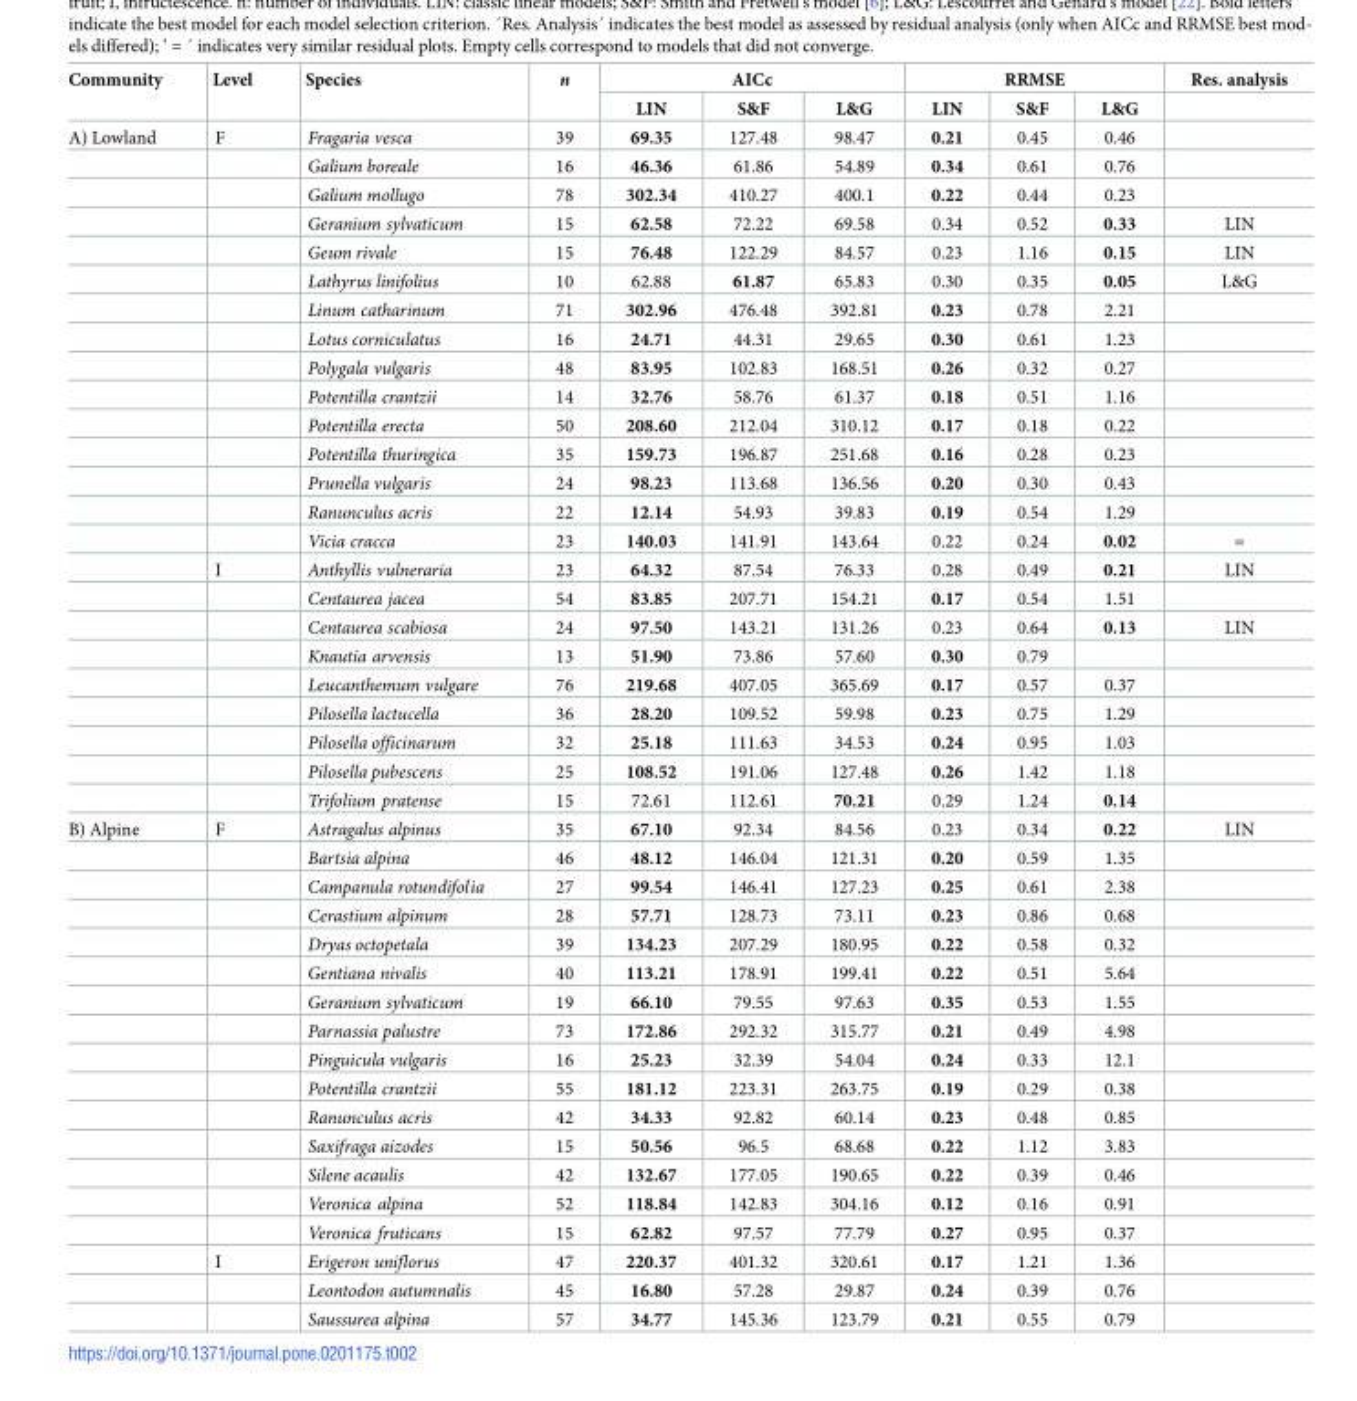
<table><thead><tr><td rowspan="2">Community</td><td rowspan="2">Level</td><td rowspan="2">Species</td><td rowspan="2">n</td><td colspan="3">AICc</td><td colspan="3">RRMSE</td><td rowspan="2">Res. analysis</td></tr><tr><td>LIN</td><td>S&amp;F</td><td>L&amp;G</td><td>LIN</td><td>S&amp;F</td><td>L&amp;G</td></tr></thead><tbody><tr><td rowspan="24">A) Lowland</td><td>F</td><td>Fragaria vesca</td><td>39</td><td>69.35</td><td>127.48</td><td>98.47</td><td>0.21</td><td>0.45</td><td>0.46</td><td></td></tr><tr><td></td><td>Galium boreale</td><td>16</td><td>46.36</td><td>61.86</td><td>54.89</td><td>0.34</td><td>0.61</td><td>0.76</td><td></td></tr><tr><td></td><td>Galium mollugo</td><td>78</td><td>302.34</td><td>410.27</td><td>400.1</td><td>0.22</td><td>0.44</td><td>0.23</td><td></td></tr><tr><td></td><td>Geranium sylvaticum</td><td>15</td><td>62.58</td><td>72.22</td><td>69.58</td><td>0.34</td><td>0.52</td><td>0.33</td><td>LIN</td></tr><tr><td></td><td>Geum rivale</td><td>15</td><td>76.48</td><td>122.29</td><td>84.57</td><td>0.23</td><td>1.16</td><td>0.15</td><td>LIN</td></tr><tr><td></td><td>Lathyrus linifolius</td><td>10</td><td>62.88</td><td>61.87</td><td>65.83</td><td>0.30</td><td>0.35</td><td>0.05</td><td>L&amp;G</td></tr><tr><td></td><td>Linum catharinum</td><td>71</td><td>302.96</td><td>476.48</td><td>392.81</td><td>0.23</td><td>0.78</td><td>2.21</td><td></td></tr><tr><td></td><td>Lotus corniculatus</td><td>16</td><td>24.71</td><td>44.31</td><td>29.65</td><td>0.30</td><td>0.61</td><td>1.23</td><td></td></tr><tr><td></td><td>Polygala vulgaris</td><td>48</td><td>83.95</td><td>102.83</td><td>168.51</td><td>0.26</td><td>0.32</td><td>0.27</td><td></td></tr><tr><td></td><td>Potentilla crantzii</td><td>14</td><td>32.76</td><td>58.76</td><td>61.37</td><td>0.18</td><td>0.51</td><td>1.16</td><td></td></tr><tr><td></td><td>Potentilla erecta</td><td>50</td><td>208.60</td><td>212.04</td><td>310.12</td><td>0.17</td><td>0.18</td><td>0.22</td><td></td></tr><tr><td></td><td>Potentilla thuringica</td><td>35</td><td>159.73</td><td>196.87</td><td>251.68</td><td>0.16</td><td>0.28</td><td>0.23</td><td></td></tr><tr><td></td><td>Prunella vulgaris</td><td>24</td><td>98.23</td><td>113.68</td><td>136.56</td><td>0.20</td><td>0.30</td><td>0.43</td><td></td></tr><tr><td></td><td>Ranunculus acris</td><td>22</td><td>12.14</td><td>54.93</td><td>39.83</td><td>0.19</td><td>0.54</td><td>1.29</td><td></td></tr><tr><td></td><td>Vicia cracca</td><td>23</td><td>140.03</td><td>141.91</td><td>143.64</td><td>0.22</td><td>0.24</td><td>0.02</td><td>=</td></tr><tr><td>I</td><td>Anthyllis vulneraria</td><td>23</td><td>64.32</td><td>87.54</td><td>76.33</td><td>0.28</td><td>0.49</td><td>0.21</td><td>LIN</td></tr><tr><td></td><td>Centaurea jacea</td><td>54</td><td>83.85</td><td>207.71</td><td>154.21</td><td>0.17</td><td>0.54</td><td>1.51</td><td></td></tr><tr><td></td><td>Centaurea scabiosa</td><td>24</td><td>97.50</td><td>143.21</td><td>131.26</td><td>0.23</td><td>0.64</td><td>0.13</td><td>LIN</td></tr><tr><td></td><td>Knautia arvensis</td><td>13</td><td>51.90</td><td>73.86</td><td>57.60</td><td>0.30</td><td>0.79</td><td></td><td></td></tr><tr><td></td><td>Leucanthemum vulgare</td><td>76</td><td>219.68</td><td>407.05</td><td>365.69</td><td>0.17</td><td>0.57</td><td>0.37</td><td></td></tr><tr><td></td><td>Pilosella lactucella</td><td>36</td><td>28.20</td><td>109.52</td><td>59.98</td><td>0.23</td><td>0.75</td><td>1.29</td><td></td></tr><tr><td></td><td>Pilosella officinarum</td><td>32</td><td>25.18</td><td>111.63</td><td>34.53</td><td>0.24</td><td>0.95</td><td>1.03</td><td></td></tr><tr><td></td><td>Pilosella pubescens</td><td>25</td><td>108.52</td><td>191.06</td><td>127.48</td><td>0.26</td><td>1.42</td><td>1.18</td><td></td></tr><tr><td></td><td>Trifolium pratense</td><td>15</td><td>72.61</td><td>112.61</td><td>70.21</td><td>0.29</td><td>1.24</td><td>0.14</td><td></td></tr><tr><td rowspan="18">B) Alpine</td><td>F</td><td>Astragalus alpinus</td><td>35</td><td>67.10</td><td>92.34</td><td>84.56</td><td>0.23</td><td>0.34</td><td>0.22</td><td>LIN</td></tr><tr><td></td><td>Bartsia alpina</td><td>46</td><td>48.12</td><td>146.04</td><td>121.31</td><td>0.20</td><td>0.59</td><td>1.35</td><td></td></tr><tr><td></td><td>Campanula rotundifolia</td><td>27</td><td>99.54</td><td>146.41</td><td>127.23</td><td>0.25</td><td>0.61</td><td>2.38</td><td></td></tr><tr><td></td><td>Cerastium alpinum</td><td>28</td><td>57.71</td><td>128.73</td><td>73.11</td><td>0.23</td><td>0.86</td><td>0.68</td><td></td></tr><tr><td></td><td>Dryas octopetala</td><td>39</td><td>134.23</td><td>207.29</td><td>180.95</td><td>0.22</td><td>0.58</td><td>0.32</td><td></td></tr><tr><td></td><td>Gentiana nivalis</td><td>40</td><td>113.21</td><td>178.91</td><td>199.41</td><td>0.22</td><td>0.51</td><td>5.64</td><td></td></tr><tr><td></td><td>Geranium sylvaticum</td><td>19</td><td>66.10</td><td>79.55</td><td>97.63</td><td>0.35</td><td>0.53</td><td>1.55</td><td></td></tr><tr><td></td><td>Parnassia palustre</td><td>73</td><td>172.86</td><td>292.32</td><td>315.77</td><td>0.21</td><td>0.49</td><td>4.98</td><td></td></tr><tr><td></td><td>Pinguicula vulgaris</td><td>16</td><td>25.23</td><td>32.39</td><td>54.04</td><td>0.24</td><td>0.33</td><td>12.1</td><td></td></tr><tr><td></td><td>Potentilla crantzii</td><td>55</td><td>181.12</td><td>223.31</td><td>263.75</td><td>0.19</td><td>0.29</td><td>0.38</td><td></td></tr><tr><td></td><td>Ranunculus acris</td><td>42</td><td>34.33</td><td>92.82</td><td>60.14</td><td>0.23</td><td>0.48</td><td>0.85</td><td></td></tr><tr><td></td><td>Saxifraga aizodes</td><td>15</td><td>50.56</td><td>96.5</td><td>68.68</td><td>0.22</td><td>1.12</td><td>3.83</td><td></td></tr><tr><td></td><td>Silene acaulis</td><td>42</td><td>132.67</td><td>177.05</td><td>190.65</td><td>0.22</td><td>0.39</td><td>0.46</td><td></td></tr><tr><td></td><td>Veronica alpina</td><td>52</td><td>118.84</td><td>142.83</td><td>304.16</td><td>0.12</td><td>0.16</td><td>0.91</td><td></td></tr><tr><td></td><td>Veronica fruticans</td><td>15</td><td>62.82</td><td>97.57</td><td>77.79</td><td>0.27</td><td>0.95</td><td>0.37</td><td></td></tr><tr><td>I</td><td>Erigeron uniflorus</td><td>47</td><td>220.37</td><td>401.32</td><td>320.61</td><td>0.17</td><td>1.21</td><td>1.36</td><td></td></tr><tr><td></td><td>Leontodon autumnalis</td><td>45</td><td>16.80</td><td>57.28</td><td>29.87</td><td>0.24</td><td>0.39</td><td>0.76</td><td></td></tr><tr><td></td><td>Saussurea alpina</td><td>57</td><td>34.77</td><td>145.36</td><td>123.79</td><td>0.21</td><td>0.55</td><td>0.79</td><td></td></tr></tbody></table>